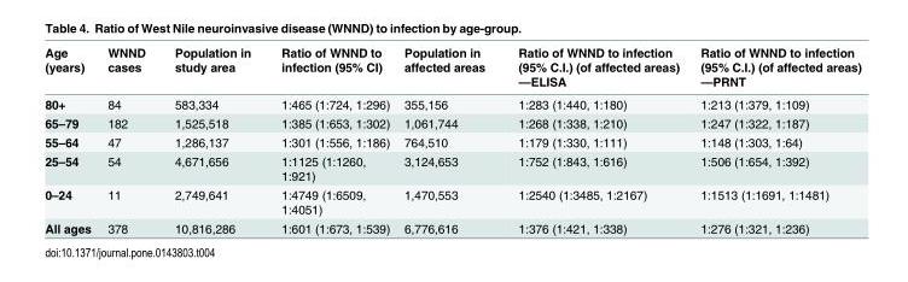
<table><thead><tr><td>Age (years)</td><td>WNND cases</td><td>Population in study area</td><td>Ratio of WNND to infection (95% CI)</td><td>Population in affected areas</td><td>Ratio of WNND to infection (95% C.I.) (of affected areas) —ELISA</td><td>Ratio of WNND to infection (95% C.I.) (of affected areas) —PRNT</td></tr></thead><tbody><tr><td>80+</td><td>84</td><td>583,334</td><td>1:465 (1:724, 1:296)</td><td>355,156</td><td>1:283 (1:440, 1:180)</td><td>1:213 (1:379, 1:109)</td></tr><tr><td>65–79</td><td>182</td><td>1,525,518</td><td>1:385 (1:653, 1:302)</td><td>1,061,744</td><td>1:268 (1:338, 1:210)</td><td>1:247 (1:322, 1:187)</td></tr><tr><td>55–64</td><td>47</td><td>1,286,137</td><td>1:301 (1:556, 1:186)</td><td>764,510</td><td>1:179 (1:330, 1:111)</td><td>1:148 (1:303, 1:64)</td></tr><tr><td>25–54</td><td>54</td><td>4,671,656</td><td>1:1125 (1:1260, 1:921)</td><td>3,124,653</td><td>1:752 (1:843, 1:616)</td><td>1:506 (1:654, 1:392)</td></tr><tr><td>0–24</td><td>11</td><td>2,749,641</td><td>1:4749 (1:6509, 1:4051)</td><td>1,470,553</td><td>1:2540 (1:3485, 1:2167)</td><td>1:1513 (1:1691, 1:1481)</td></tr><tr><td>All ages</td><td>378</td><td>10,816,286</td><td>1:601 (1:673, 1:539)</td><td>6,776,616</td><td>1:376 (1:421, 1:338)</td><td>1:276 (1:321, 1:236)</td></tr></tbody></table>